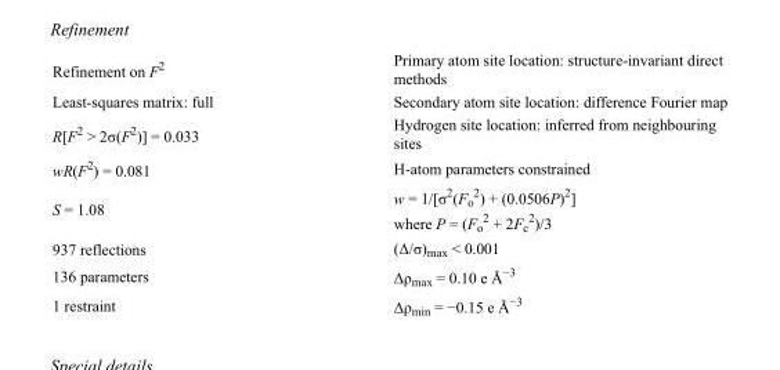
<table><tbody><tr><td>Refinement on F<sup>2</sup></td><td>Primary atom site location: structure-invariant direct methods</td></tr><tr><td>Least-squares matrix: full</td><td>Secondary atom site location: difference Fourier map</td></tr><tr><td>R[F<sup>2</sup> &gt; 2σ(F<sup>2</sup>)] = 0.033</td><td>Hydrogen site location: inferred from neighbouring sites</td></tr><tr><td>wR(F<sup>2</sup>) = 0.081</td><td>H-atom parameters constrained</td></tr><tr><td>S = 1.08</td><td>w = 1/[σ<sup>2</sup>(F<sub>o</sub> <sup>2</sup>) + (0.0506P)<sup>2</sup>] where P = (F<sub>o</sub> <sup>2</sup> + 2F<sub>c</sub> <sup>2</sup>)/3</td></tr><tr><td>937 reflections</td><td>(Δ/σ)<sub>max</sub> &lt; 0.001</td></tr><tr><td>136 parameters</td><td>Δρ<sub>max</sub> = 0.10 e Å<sup>−3</sup></td></tr><tr><td>1 restraint</td><td>Δρ<sub>min</sub> = −0.15 e Å<sup>−3</sup></td></tr></tbody></table>